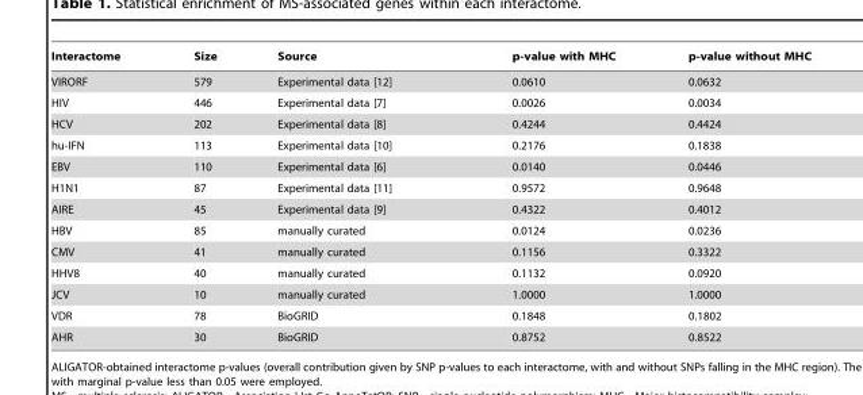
<table><thead><tr><td>Interactome</td><td>Size</td><td>Source</td><td>p-value with MHC</td><td>p-value without MHC</td></tr></thead><tbody><tr><td>VIRORF</td><td>579</td><td>Experimental data [12]</td><td>0.0610</td><td>0.0632</td></tr><tr><td>HIV</td><td>446</td><td>Experimental data [7]</td><td>0.0026</td><td>0.0034</td></tr><tr><td>HCV</td><td>202</td><td>Experimental data [8]</td><td>0.4244</td><td>0.4424</td></tr><tr><td>hu-IFN</td><td>113</td><td>Experimental data [10]</td><td>0.2176</td><td>0.1838</td></tr><tr><td>EBV</td><td>110</td><td>Experimental data [6]</td><td>0.0140</td><td>0.0446</td></tr><tr><td>H1N1</td><td>87</td><td>Experimental data [11]</td><td>0.9572</td><td>0.9648</td></tr><tr><td>AIRE</td><td>45</td><td>Experimental data [9]</td><td>0.4322</td><td>0.4012</td></tr><tr><td>HBV</td><td>85</td><td>manually curated</td><td>0.0124</td><td>0.0236</td></tr><tr><td>CMV</td><td>41</td><td>manually curated</td><td>0.1156</td><td>0.3322</td></tr><tr><td>HHV8</td><td>40</td><td>manually curated</td><td>0.1132</td><td>0.0920</td></tr><tr><td>JCV</td><td>10</td><td>manually curated</td><td>1.0000</td><td>1.0000</td></tr><tr><td>VDR</td><td>78</td><td>BioGRID</td><td>0.1848</td><td>0.1802</td></tr><tr><td>AHR</td><td>30</td><td>BioGRID</td><td>0.8752</td><td>0.8522</td></tr></tbody></table>